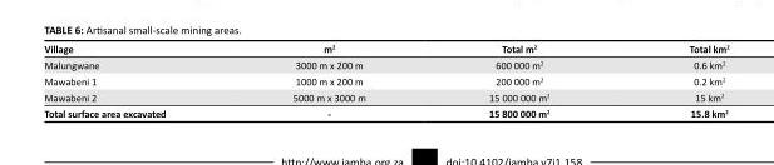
<table><thead><tr><td>Village</td><td>m<sup>2</sup></td><td>Total m<sup>2</sup></td><td>Total km<sup>2</sup></td></tr></thead><tbody><tr><td>Malungwane</td><td>3000 m x 200 m</td><td>600 000 m<sup>2</sup></td><td>0.6 km<sup>2</sup></td></tr><tr><td>Mawabeni 1</td><td>1000 m x 200 m</td><td>200 000 m<sup>2</sup></td><td>0.2 km<sup>2</sup></td></tr><tr><td>Mawabeni 2</td><td>5000 m x 3000 m</td><td>15 000 000 m<sup>2</sup></td><td>15 km<sup>2</sup></td></tr><tr><td>Total surface area excavated</td><td>-</td><td>15 800 000 m<sup>2</sup></td><td>15.8 km<sup>2</sup></td></tr></tbody></table>